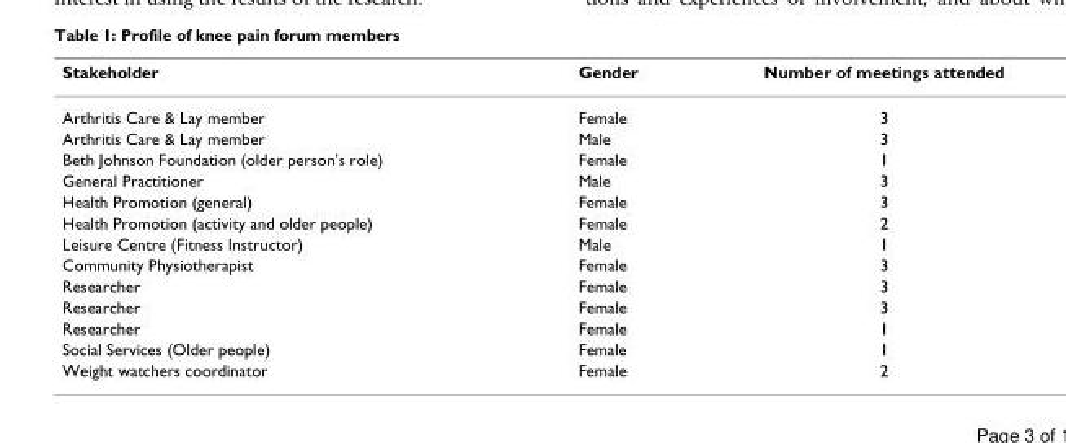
<table><thead><tr><td>Stakeholder</td><td>Gender</td><td>Number of meetings attended</td></tr></thead><tbody><tr><td>Arthritis Care &amp; Lay member</td><td>Female</td><td>3</td></tr><tr><td>Arthritis Care &amp; Lay member</td><td>Male</td><td>3</td></tr><tr><td>Beth Johnson Foundation (older person&#x27;s role)</td><td>Female</td><td>1</td></tr><tr><td>General Practitioner</td><td>Male</td><td>3</td></tr><tr><td>Health Promotion (general)</td><td>Female</td><td>3</td></tr><tr><td>Health Promotion (activity and older people)</td><td>Female</td><td>2</td></tr><tr><td>Leisure Centre (Fitness Instructor)</td><td>Male</td><td>1</td></tr><tr><td>Community Physiotherapist</td><td>Female</td><td>3</td></tr><tr><td>Researcher</td><td>Female</td><td>3</td></tr><tr><td>Researcher</td><td>Female</td><td>3</td></tr><tr><td>Researcher</td><td>Female</td><td>1</td></tr><tr><td>Social Services (Older people)</td><td>Female</td><td>1</td></tr><tr><td>Weight watchers coordinator</td><td>Female</td><td>2</td></tr></tbody></table>